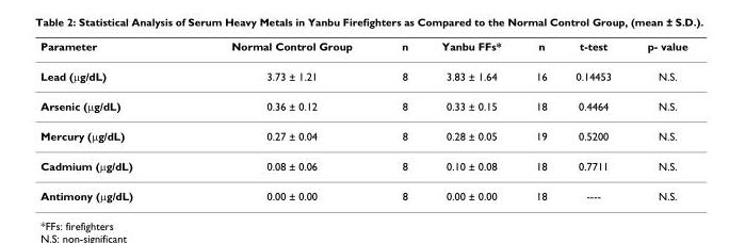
<table><thead><tr><td>Parameter</td><td>Normal Control Group</td><td>n</td><td>Yanbu FFs*</td><td>n</td><td>t-test</td><td>p- value</td></tr></thead><tbody><tr><td>Lead (μg/dL)</td><td>3.73 ± 1.21</td><td>8</td><td>3.83 ± 1.64</td><td>16</td><td>0.14453</td><td>N.S.</td></tr><tr><td>Arsenic (μg/dL)</td><td>0.36 ± 0.12</td><td>8</td><td>0.33 ± 0.15</td><td>18</td><td>0.4464</td><td>N.S.</td></tr><tr><td>Mercury (μg/dL)</td><td>0.27 ± 0.04</td><td>8</td><td>0.28 ± 0.05</td><td>19</td><td>0.5200</td><td>N.S.</td></tr><tr><td>Cadmium (μg/dL)</td><td>0.08 ± 0.06</td><td>8</td><td>0.10 ± 0.08</td><td>18</td><td>0.7711</td><td>N.S.</td></tr><tr><td>Antimony (μg/dL)</td><td>0.00 ± 0.00</td><td>8</td><td>0.00 ± 0.00</td><td>18</td><td>----</td><td>N.S.</td></tr></tbody></table>